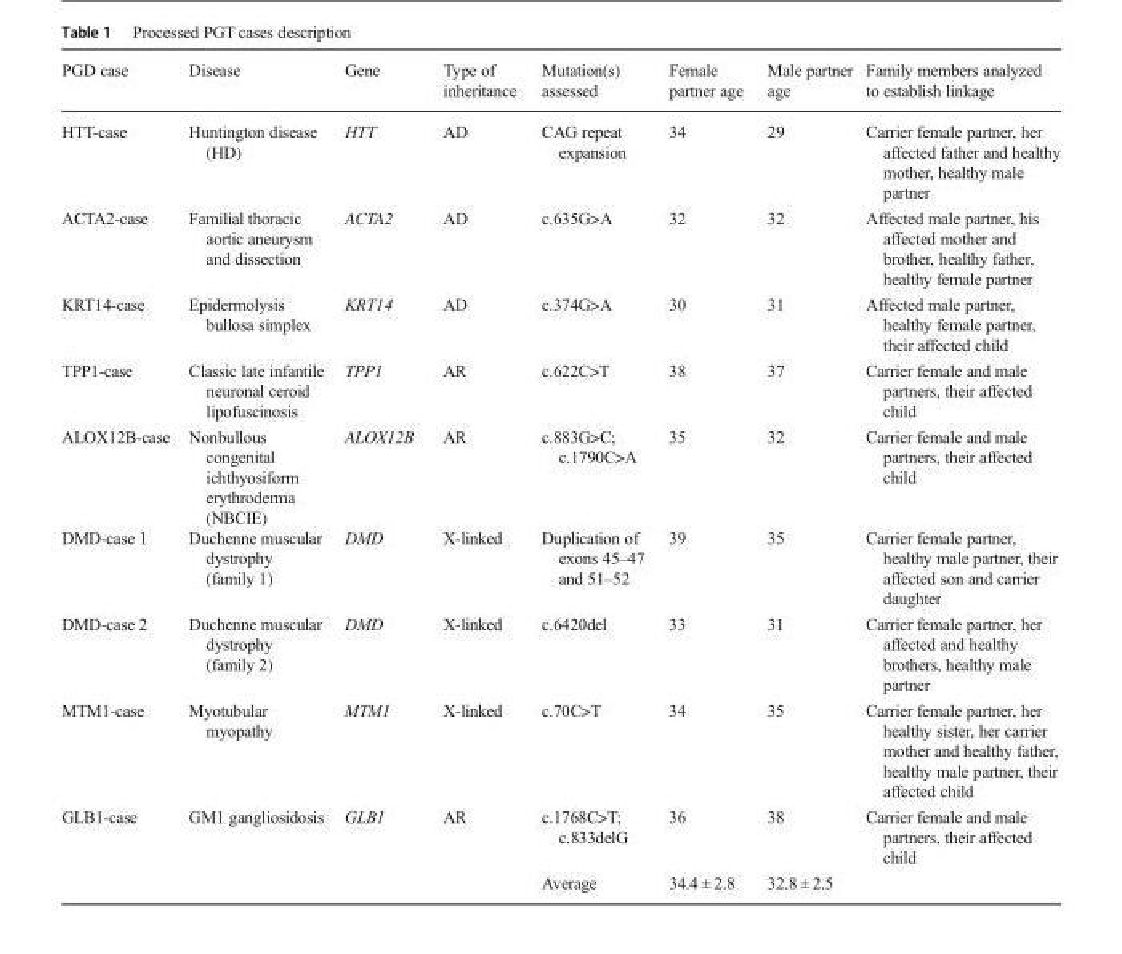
<table><thead><tr><td>PGD case</td><td>Disease</td><td>Gene</td><td>Type of inheritance</td><td>Mutation(s) assessed</td><td>Female partner age</td><td>Male partner age</td><td>Family members analyzed to establish linkage</td></tr></thead><tbody><tr><td>HTT-case</td><td>Huntington disease (HD)</td><td>HTT</td><td>AD</td><td>CAG repeat expansion</td><td>34</td><td>29</td><td>Carrier female partner, her affected father and healthy mother, healthy male partner</td></tr><tr><td>ACTA2-case</td><td>Familial thoracic aortic aneurysm and dissection</td><td>ACTA2</td><td>AD</td><td>c.635G&gt;A</td><td>32</td><td>32</td><td>Affected male partner, his affected mother and brother, healthy father, healthy female partner</td></tr><tr><td>KRT14-case</td><td>Epidermolysis bullosa simplex</td><td>KRT14</td><td>AD</td><td>c.374G&gt;A</td><td>30</td><td>31</td><td>Affected male partner, healthy female partner, their affected child</td></tr><tr><td>TPP1-case</td><td>Classic late infantile neuronal ceroid lipofuscinosis</td><td>TPP1</td><td>AR</td><td>c.622C&gt;T</td><td>38</td><td>37</td><td>Carrier female and male partners, their affected child</td></tr><tr><td>ALOX12B-case</td><td>Nonbullous congenital ichthyosiform erythroderma (NBCIE)</td><td>ALOX12B</td><td>AR</td><td>c.883G&gt;C; c.1790C&gt;A</td><td>35</td><td>32</td><td>Carrier female and male partners, their affected child</td></tr><tr><td>DMD-case 1</td><td>Duchenne muscular dystrophy (family 1)</td><td>DMD</td><td>X-linked</td><td>Duplication of exons 45–47 and 51–52</td><td>39</td><td>35</td><td>Carrier female partner, healthy male partner, their affected son and carrier daughter</td></tr><tr><td>DMD-case 2</td><td>Duchenne muscular dystrophy (family 2)</td><td>DMD</td><td>X-linked</td><td>c.6420del</td><td>33</td><td>31</td><td>Carrier female partner, her affected and healthy brothers, healthy male partner</td></tr><tr><td>MTM1-case</td><td>Myotubular myopathy</td><td>MTM1</td><td>X-linked</td><td>c.70C&gt;T</td><td>34</td><td>35</td><td>Carrier female partner, her healthy sister, her carrier mother and healthy father, healthy male partner, their affected child</td></tr><tr><td rowspan="2">GLB1-case</td><td>GM1 gangliosidosis</td><td>GLB1</td><td>AR</td><td>c.1768C&gt;T; c.833delG</td><td>36</td><td>38</td><td>Carrier female and male partners, their affected child</td></tr><tr><td></td><td></td><td></td><td>Average</td><td>34.4 ± 2.8</td><td>32.8 ± 2.5</td><td></td></tr></tbody></table>